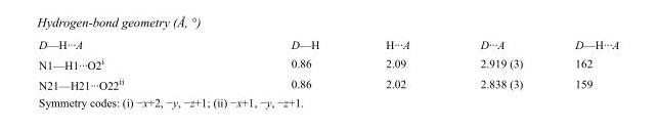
<table><tbody><tr><td>D—H···A</td><td>D—H</td><td>H···A</td><td>D···A</td><td>D—H···A</td></tr><tr><td>N1—H1···O2<sup>i</sup></td><td>0.86</td><td>2.09</td><td>2.919 (3)</td><td>162</td></tr><tr><td>N21—H21···O22<sup>ii</sup></td><td>0.86</td><td>2.02</td><td>2.838 (3)</td><td>159</td></tr></tbody></table>